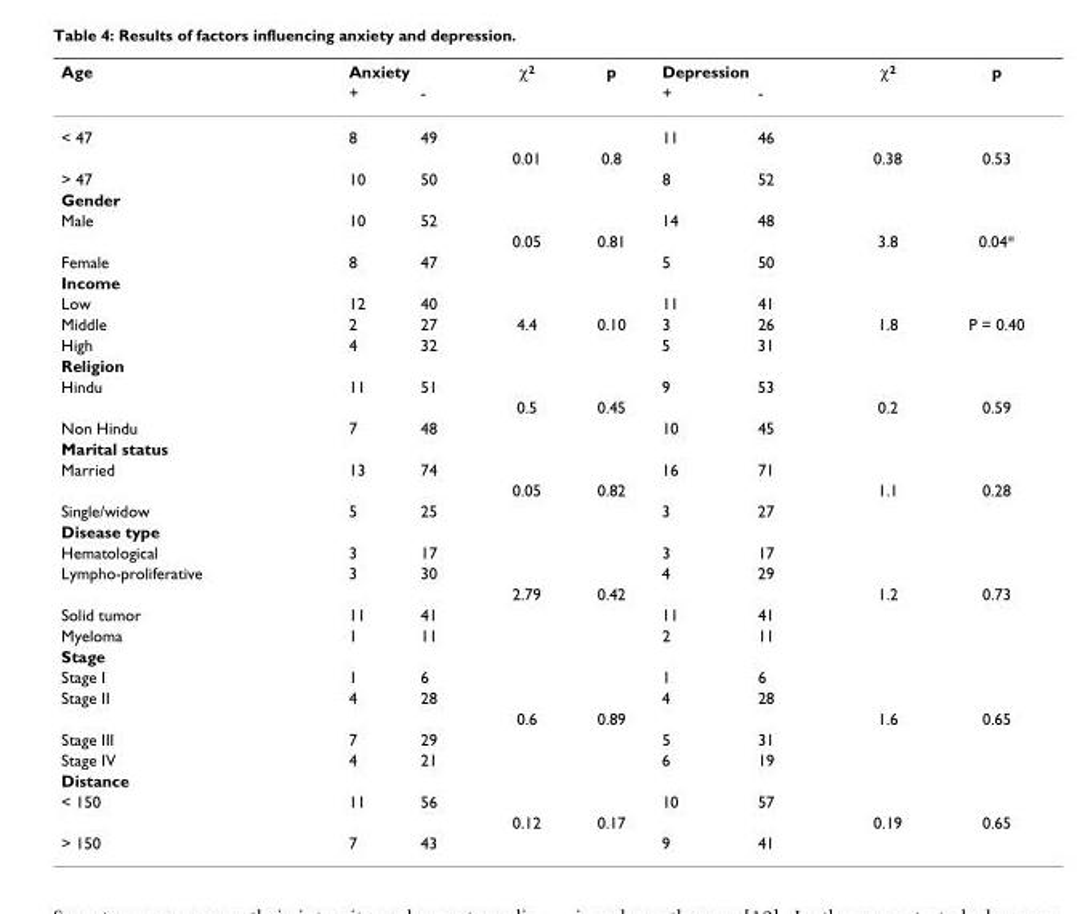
<table><thead><tr><td rowspan="2">Age</td><td colspan="2">Anxiety</td><td rowspan="2">χ<sup>2</sup></td><td rowspan="2">p</td><td colspan="2">Depression</td><td rowspan="2">χ<sup>2</sup></td><td rowspan="2">p</td></tr><tr><td>+</td><td>-</td><td>+</td><td>-</td></tr></thead><tbody><tr><td rowspan="2">&lt; 47</td><td>8</td><td>49</td><td></td><td></td><td>11</td><td>46</td><td></td><td></td></tr><tr><td></td><td></td><td>0.01</td><td>0.8</td><td></td><td></td><td>0.38</td><td>0.53</td></tr><tr><td>&gt; 47</td><td>10</td><td>50</td><td></td><td></td><td>8</td><td>52</td><td></td><td></td></tr><tr><td colspan="9">Gender</td></tr><tr><td rowspan="2">Male</td><td>10</td><td>52</td><td></td><td></td><td>14</td><td>48</td><td></td><td></td></tr><tr><td></td><td></td><td>0.05</td><td>0.81</td><td></td><td></td><td>3.8</td><td>0.04*</td></tr><tr><td>Female</td><td>8</td><td>47</td><td></td><td></td><td>5</td><td>50</td><td></td><td></td></tr><tr><td colspan="9">Income</td></tr><tr><td>Low</td><td>12</td><td>40</td><td></td><td></td><td>11</td><td>41</td><td></td><td></td></tr><tr><td>Middle</td><td>2</td><td>27</td><td>4.4</td><td>0.10</td><td>3</td><td>26</td><td>1.8</td><td>P = 0.40</td></tr><tr><td>High</td><td>4</td><td>32</td><td></td><td></td><td>5</td><td>31</td><td></td><td></td></tr><tr><td colspan="9">Religion</td></tr><tr><td rowspan="2">Hindu</td><td>11</td><td>51</td><td></td><td></td><td>9</td><td>53</td><td></td><td></td></tr><tr><td></td><td></td><td>0.5</td><td>0.45</td><td></td><td></td><td>0.2</td><td>0.59</td></tr><tr><td>Non Hindu</td><td>7</td><td>48</td><td></td><td></td><td>10</td><td>45</td><td></td><td></td></tr><tr><td colspan="9">Marital status</td></tr><tr><td rowspan="2">Married</td><td>13</td><td>74</td><td></td><td></td><td>16</td><td>71</td><td></td><td></td></tr><tr><td></td><td></td><td>0.05</td><td>0.82</td><td></td><td></td><td>1.1</td><td>0.28</td></tr><tr><td>Single/widow</td><td>5</td><td>25</td><td></td><td></td><td>3</td><td>27</td><td></td><td></td></tr><tr><td colspan="9">Disease type</td></tr><tr><td>Hematological</td><td>3</td><td>17</td><td></td><td></td><td>3</td><td>17</td><td></td><td></td></tr><tr><td rowspan="2">Lympho-proliferative</td><td>3</td><td>30</td><td></td><td></td><td>4</td><td>29</td><td></td><td></td></tr><tr><td></td><td></td><td>2.79</td><td>0.42</td><td></td><td></td><td>1.2</td><td>0.73</td></tr><tr><td>Solid tumor</td><td>11</td><td>41</td><td></td><td></td><td>11</td><td>41</td><td></td><td></td></tr><tr><td>Myeloma</td><td>1</td><td>11</td><td></td><td></td><td>2</td><td>11</td><td></td><td></td></tr><tr><td colspan="9">Stage</td></tr><tr><td>Stage I</td><td>1</td><td>6</td><td></td><td></td><td>1</td><td>6</td><td></td><td></td></tr><tr><td rowspan="2">Stage II</td><td>4</td><td>28</td><td></td><td></td><td>4</td><td>28</td><td></td><td></td></tr><tr><td></td><td></td><td>0.6</td><td>0.89</td><td></td><td></td><td>1.6</td><td>0.65</td></tr><tr><td>Stage III</td><td>7</td><td>29</td><td></td><td></td><td>5</td><td>31</td><td></td><td></td></tr><tr><td>Stage IV</td><td>4</td><td>21</td><td></td><td></td><td>6</td><td>19</td><td></td><td></td></tr><tr><td colspan="9">Distance</td></tr><tr><td rowspan="2">&lt; 150</td><td>11</td><td>56</td><td></td><td></td><td>10</td><td>57</td><td></td><td></td></tr><tr><td></td><td></td><td>0.12</td><td>0.17</td><td></td><td></td><td>0.19</td><td>0.65</td></tr><tr><td>&gt; 150</td><td>7</td><td>43</td><td></td><td></td><td>9</td><td>41</td><td></td><td></td></tr></tbody></table>